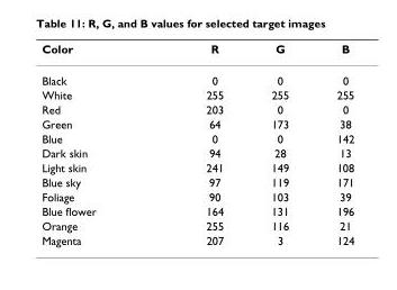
<table><thead><tr><td>Color</td><td>R</td><td>G</td><td>B</td></tr></thead><tbody><tr><td>Black</td><td>0</td><td>0</td><td>0</td></tr><tr><td>White</td><td>255</td><td>255</td><td>255</td></tr><tr><td>Red</td><td>203</td><td>0</td><td>0</td></tr><tr><td>Green</td><td>64</td><td>173</td><td>38</td></tr><tr><td>Blue</td><td>0</td><td>0</td><td>142</td></tr><tr><td>Dark skin</td><td>94</td><td>28</td><td>13</td></tr><tr><td>Light skin</td><td>241</td><td>149</td><td>108</td></tr><tr><td>Blue sky</td><td>97</td><td>119</td><td>171</td></tr><tr><td>Foliage</td><td>90</td><td>103</td><td>39</td></tr><tr><td>Blue flower</td><td>164</td><td>131</td><td>196</td></tr><tr><td>Orange</td><td>255</td><td>116</td><td>21</td></tr><tr><td>Magenta</td><td>207</td><td>3</td><td>124</td></tr></tbody></table>